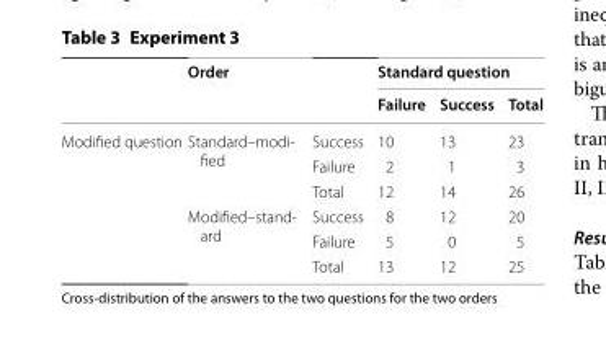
<table><thead><tr><td rowspan="2"></td><td rowspan="2">Order</td><td rowspan="2"></td><td colspan="3">Standard question</td></tr><tr><td>Failure</td><td>Success</td><td>Total</td></tr></thead><tbody><tr><td rowspan="6">Modified question</td><td rowspan="3">Standard–modi- fied</td><td>Success</td><td>10</td><td>13</td><td>23</td></tr><tr><td>Failure</td><td>2</td><td>1</td><td>3</td></tr><tr><td>Total</td><td>12</td><td>14</td><td>26</td></tr><tr><td rowspan="3">Modified–stand- ard</td><td>Success</td><td>8</td><td>12</td><td>20</td></tr><tr><td>Failure</td><td>5</td><td>0</td><td>5</td></tr><tr><td>Total</td><td>13</td><td>12</td><td>25</td></tr></tbody></table>